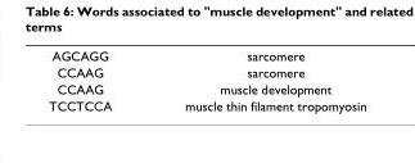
<table><tbody><tr><td>AGCAGG</td><td>sarcomere</td></tr><tr><td>CCAAG</td><td>sarcomere</td></tr><tr><td>CCAAG</td><td>muscle development</td></tr><tr><td>TCCTCCA</td><td>muscle thin filament tropomyosin</td></tr></tbody></table>